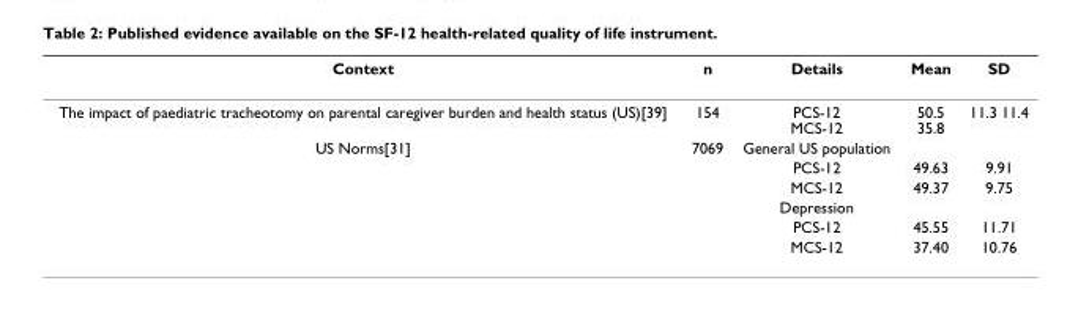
<table><thead><tr><td>Context</td><td>n</td><td>Details</td><td>Mean</td><td>SD</td></tr></thead><tbody><tr><td>The impact of paediatric tracheotomy on parental caregiver burden and health status (US)[39]</td><td>154</td><td>PCS-12 MCS-12</td><td>50.5 35.8</td><td>11.3 11.4</td></tr><tr><td rowspan="6">US Norms[31]</td><td>7069</td><td>General US population</td><td></td><td></td></tr><tr><td></td><td>PCS-12</td><td>49.63</td><td>9.91</td></tr><tr><td></td><td>MCS-12</td><td>49.37</td><td>9.75</td></tr><tr><td></td><td>Depression</td><td></td><td></td></tr><tr><td></td><td>PCS-12</td><td>45.55</td><td>11.71</td></tr><tr><td></td><td>MCS-12</td><td>37.40</td><td>10.76</td></tr></tbody></table>